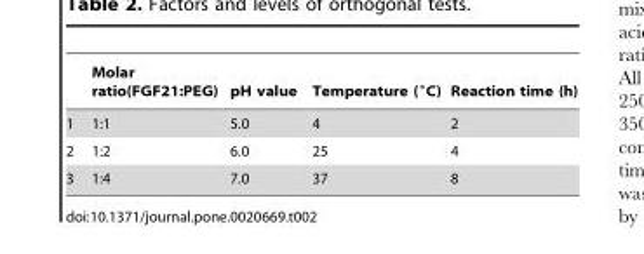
<table><thead><tr><td></td><td>Molar ratio(FGF21:PEG)</td><td>pH value</td><td>Temperature (°C)</td><td>Reaction time (h)</td></tr></thead><tbody><tr><td>1</td><td>1:1</td><td>5.0</td><td>4</td><td>2</td></tr><tr><td>2</td><td>1:2</td><td>6.0</td><td>25</td><td>4</td></tr><tr><td>3</td><td>1:4</td><td>7.0</td><td>37</td><td>8</td></tr></tbody></table>